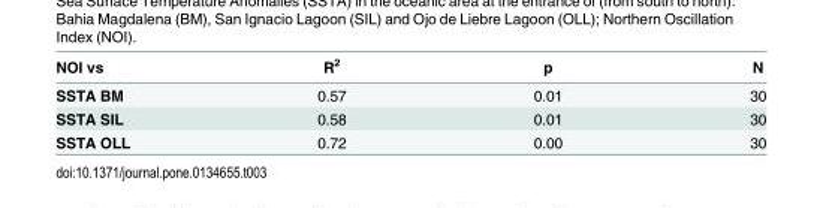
<table><thead><tr><td>NOI vs</td><td>R<sup>2</sup></td><td>p</td><td>N</td></tr></thead><tbody><tr><td>SSTA BM</td><td>0.57</td><td>0.01</td><td>30</td></tr><tr><td>SSTA SIL</td><td>0.58</td><td>0.01</td><td>30</td></tr><tr><td>SSTA OLL</td><td>0.72</td><td>0.00</td><td>30</td></tr></tbody></table>